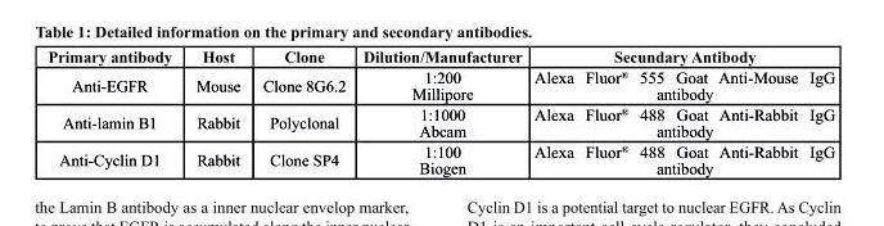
<table><thead><tr><td>Primary antibody</td><td>Host</td><td>Clone</td><td>Dilution/Manufacturer</td><td>Secundary Antibody</td></tr></thead><tbody><tr><td>Anti-EGFR</td><td>Mouse</td><td>Clone 8G6.2</td><td>1:200 Millipore</td><td>Alexa Fluor® 555 Goat Anti-Mouse IgG antibody</td></tr><tr><td>Anti-lamin B1</td><td>Rabbit</td><td>Polyclonal</td><td>1:1000 Abcam</td><td>Alexa Fluor® 488 Goat Anti-Rabbit IgG antibody</td></tr><tr><td>Anti-Cyclin D1</td><td>Rabbit</td><td>Clone SP4</td><td>1:100 Biogen</td><td>Alexa Fluor® 488 Goat Anti-Rabbit IgG antibody</td></tr></tbody></table>